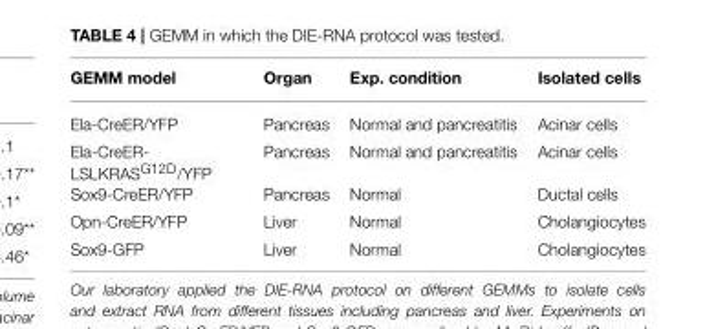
<table><thead><tr><td>GEMM model</td><td>Organ</td><td>Exp. condition</td><td>Isolated cells</td></tr></thead><tbody><tr><td>Ela-CreER/YFP</td><td>Pancreas</td><td>Normal and pancreatitis</td><td>Acinar cells</td></tr><tr><td>Ela-CreER- LSLKRAS<sup>G12D</sup>/YFP</td><td>Pancreas</td><td>Normal and pancreatitis</td><td>Acinar cells</td></tr><tr><td>Sox9-CreER/YFP</td><td>Pancreas</td><td>Normal</td><td>Ductal cells</td></tr><tr><td>Opn-CreER/YFP</td><td>Liver</td><td>Normal</td><td>Cholangiocytes</td></tr><tr><td>Sox9-GFP</td><td>Liver</td><td>Normal</td><td>Cholangiocytes</td></tr></tbody></table>